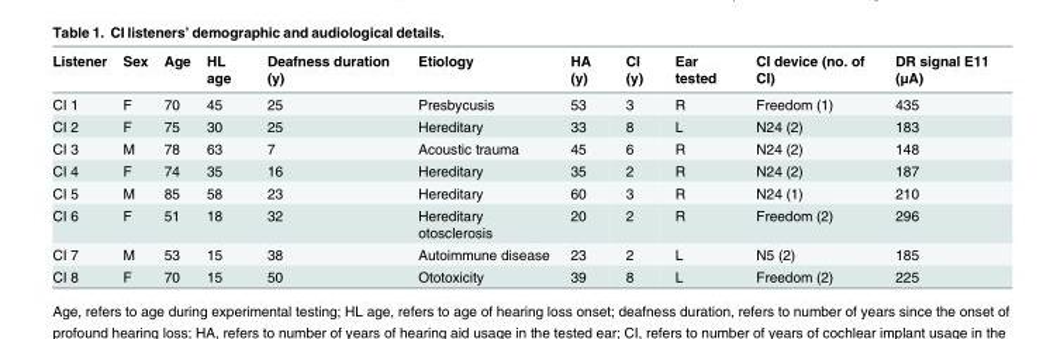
<table><thead><tr><td>Listener</td><td>Sex</td><td>Age</td><td>HL age</td><td>Deafness duration (y)</td><td>Etiology</td><td>HA (y)</td><td>CI (y)</td><td>Ear tested</td><td>CI device (no. of CI)</td><td>DR signal E11 (μA)</td></tr></thead><tbody><tr><td>CI 1</td><td>F</td><td>70</td><td>45</td><td>25</td><td>Presbycusis</td><td>53</td><td>3</td><td>R</td><td>Freedom (1)</td><td>435</td></tr><tr><td>CI 2</td><td>F</td><td>75</td><td>30</td><td>25</td><td>Hereditary</td><td>33</td><td>8</td><td>L</td><td>N24 (2)</td><td>183</td></tr><tr><td>CI 3</td><td>M</td><td>78</td><td>63</td><td>7</td><td>Acoustic trauma</td><td>45</td><td>6</td><td>R</td><td>N24 (2)</td><td>148</td></tr><tr><td>CI 4</td><td>F</td><td>74</td><td>35</td><td>16</td><td>Hereditary</td><td>35</td><td>2</td><td>R</td><td>N24 (2)</td><td>187</td></tr><tr><td>CI 5</td><td>M</td><td>85</td><td>58</td><td>23</td><td>Hereditary</td><td>60</td><td>3</td><td>R</td><td>N24 (1)</td><td>210</td></tr><tr><td>CI 6</td><td>F</td><td>51</td><td>18</td><td>32</td><td>Hereditary otosclerosis</td><td>20</td><td>2</td><td>R</td><td>Freedom (2)</td><td>296</td></tr><tr><td>CI 7</td><td>M</td><td>53</td><td>15</td><td>38</td><td>Autoimmune disease</td><td>23</td><td>2</td><td>L</td><td>N5 (2)</td><td>185</td></tr><tr><td>CI 8</td><td>F</td><td>70</td><td>15</td><td>50</td><td>Ototoxicity</td><td>39</td><td>8</td><td>L</td><td>Freedom (2)</td><td>225</td></tr></tbody></table>